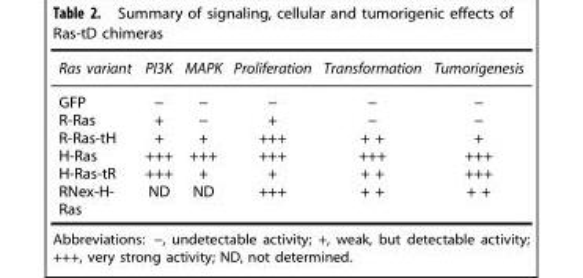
<table><thead><tr><td>Ras variant</td><td>PI3K</td><td>MAPK</td><td>Proliferation</td><td>Transformation</td><td>Tumorigenesis</td></tr></thead><tbody><tr><td>GFP</td><td>−</td><td>−</td><td>−</td><td>−</td><td>−</td></tr><tr><td>R-Ras</td><td>+</td><td>−</td><td>+</td><td>−</td><td>−</td></tr><tr><td>R-Ras-tH</td><td>+</td><td>+</td><td>+++</td><td>+ +</td><td>+</td></tr><tr><td>H-Ras</td><td>+++</td><td>+++</td><td>+++</td><td>+++</td><td>+++</td></tr><tr><td>H-Ras-tR</td><td>+++</td><td>+</td><td>+</td><td>+ +</td><td>+++</td></tr><tr><td>RNex-H- Ras</td><td>ND</td><td>ND</td><td>+++</td><td>+ +</td><td>+ +</td></tr></tbody></table>